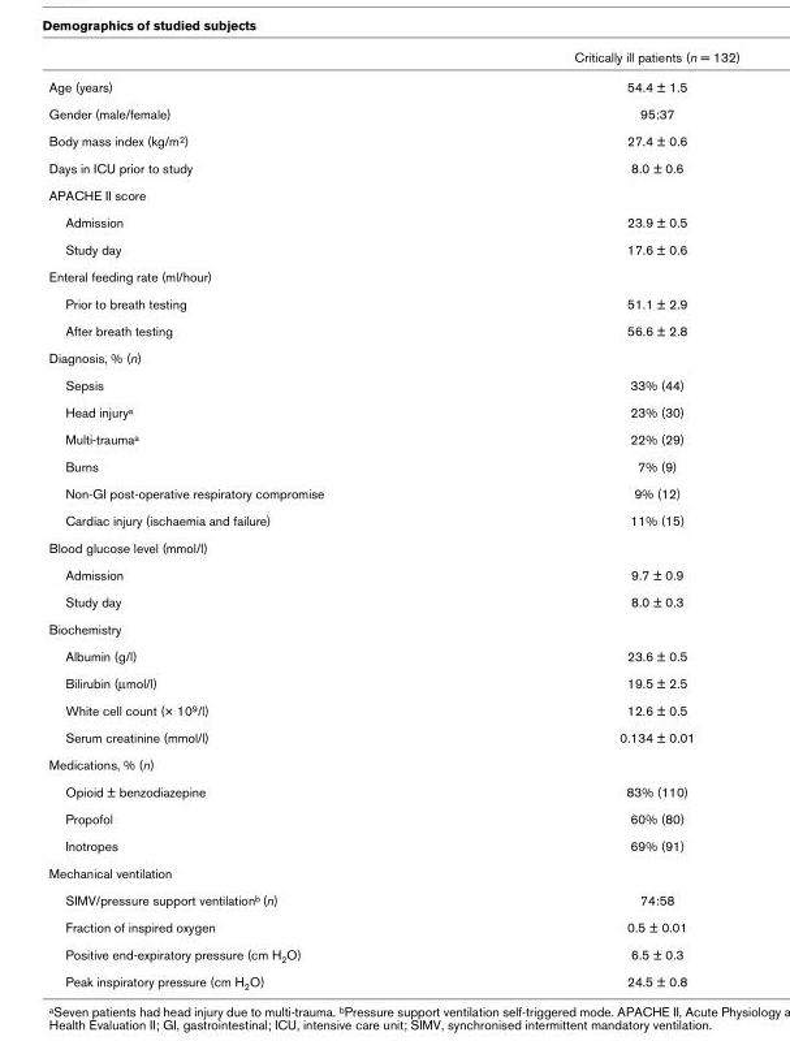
<table><thead><tr><td></td><td>Critically ill patients (n = 132)</td></tr></thead><tbody><tr><td>Age (years)</td><td>54.4 ± 1.5</td></tr><tr><td>Gender (male/female)</td><td>95:37</td></tr><tr><td>Body mass index (kg/m<sup>2</sup>)</td><td>27.4 ± 0.6</td></tr><tr><td>Days in ICU prior to study</td><td>8.0 ± 0.6</td></tr><tr><td colspan="2">APACHE II score</td></tr><tr><td>Admission</td><td>23.9 ± 0.5</td></tr><tr><td>Study day</td><td>17.6 ± 0.6</td></tr><tr><td colspan="2">Enteral feeding rate (ml/hour)</td></tr><tr><td>Prior to breath testing</td><td>51.1 ± 2.9</td></tr><tr><td>After breath testing</td><td>56.6 ± 2.8</td></tr><tr><td colspan="2">Diagnosis, % (n)</td></tr><tr><td>Sepsis</td><td>33% (44)</td></tr><tr><td>Head injury<sup>a</sup></td><td>23% (30)</td></tr><tr><td>Multi-trauma<sup>a</sup></td><td>22% (29)</td></tr><tr><td>Burns</td><td>7% (9)</td></tr><tr><td>Non-GI post-operative respiratory compromise</td><td>9% (12)</td></tr><tr><td>Cardiac injury (ischaemia and failure)</td><td>11% (15)</td></tr><tr><td colspan="2">Blood glucose level (mmol/l)</td></tr><tr><td>Admission</td><td>9.7 ± 0.9</td></tr><tr><td>Study day</td><td>8.0 ± 0.3</td></tr><tr><td colspan="2">Biochemistry</td></tr><tr><td>Albumin (g/l)</td><td>23.6 ± 0.5</td></tr><tr><td>Bilirubin (μmol/l)</td><td>19.5 ± 2.5</td></tr><tr><td>White cell count (× 10<sup>9</sup>/l)</td><td>12.6 ± 0.5</td></tr><tr><td>Serum creatinine (mmol/l)</td><td>0.134 ± 0.01</td></tr><tr><td colspan="2">Medications, % (n)</td></tr><tr><td>Opioid ± benzodiazepine</td><td>83% (110)</td></tr><tr><td>Propofol</td><td>60% (80)</td></tr><tr><td>Inotropes</td><td>69% (91)</td></tr><tr><td colspan="2">Mechanical ventilation</td></tr><tr><td>SIMV/pressure support ventilation<sup>b</sup> (n)</td><td>74:58</td></tr><tr><td>Fraction of inspired oxygen</td><td>0.5 ± 0.01</td></tr><tr><td>Positive end-expiratory pressure (cm H<sub>2</sub>O)</td><td>6.5 ± 0.3</td></tr><tr><td>Peak inspiratory pressure (cm H<sub>2</sub>O)</td><td>24.5 ± 0.8</td></tr></tbody></table>